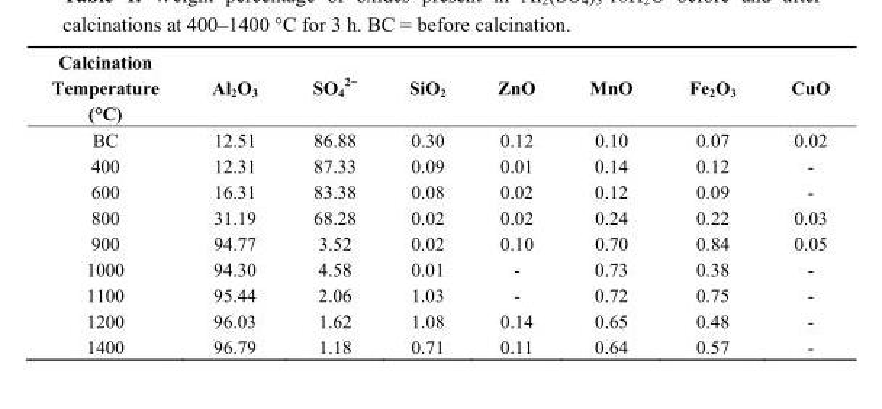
<table><thead><tr><td>Calcination Temperature (°C)</td><td>Al<sub>2</sub>O<sub>3</sub></td><td>SO<sub>4</sub> <sup>2−</sup></td><td>SiO<sub>2</sub></td><td>ZnO</td><td>MnO</td><td>Fe<sub>2</sub>O<sub>3</sub></td><td>CuO</td></tr></thead><tbody><tr><td>BC</td><td>12.51</td><td>86.88</td><td>0.30</td><td>0.12</td><td>0.10</td><td>0.07</td><td>0.02</td></tr><tr><td>400</td><td>12.31</td><td>87.33</td><td>0.09</td><td>0.01</td><td>0.14</td><td>0.12</td><td>-</td></tr><tr><td>600</td><td>16.31</td><td>83.38</td><td>0.08</td><td>0.02</td><td>0.12</td><td>0.09</td><td>-</td></tr><tr><td>800</td><td>31.19</td><td>68.28</td><td>0.02</td><td>0.02</td><td>0.24</td><td>0.22</td><td>0.03</td></tr><tr><td>900</td><td>94.77</td><td>3.52</td><td>0.02</td><td>0.10</td><td>0.70</td><td>0.84</td><td>0.05</td></tr><tr><td>1000</td><td>94.30</td><td>4.58</td><td>0.01</td><td>-</td><td>0.73</td><td>0.38</td><td>-</td></tr><tr><td>1100</td><td>95.44</td><td>2.06</td><td>1.03</td><td>-</td><td>0.72</td><td>0.75</td><td>-</td></tr><tr><td>1200</td><td>96.03</td><td>1.62</td><td>1.08</td><td>0.14</td><td>0.65</td><td>0.48</td><td>-</td></tr><tr><td>1400</td><td>96.79</td><td>1.18</td><td>0.71</td><td>0.11</td><td>0.64</td><td>0.57</td><td>-</td></tr></tbody></table>